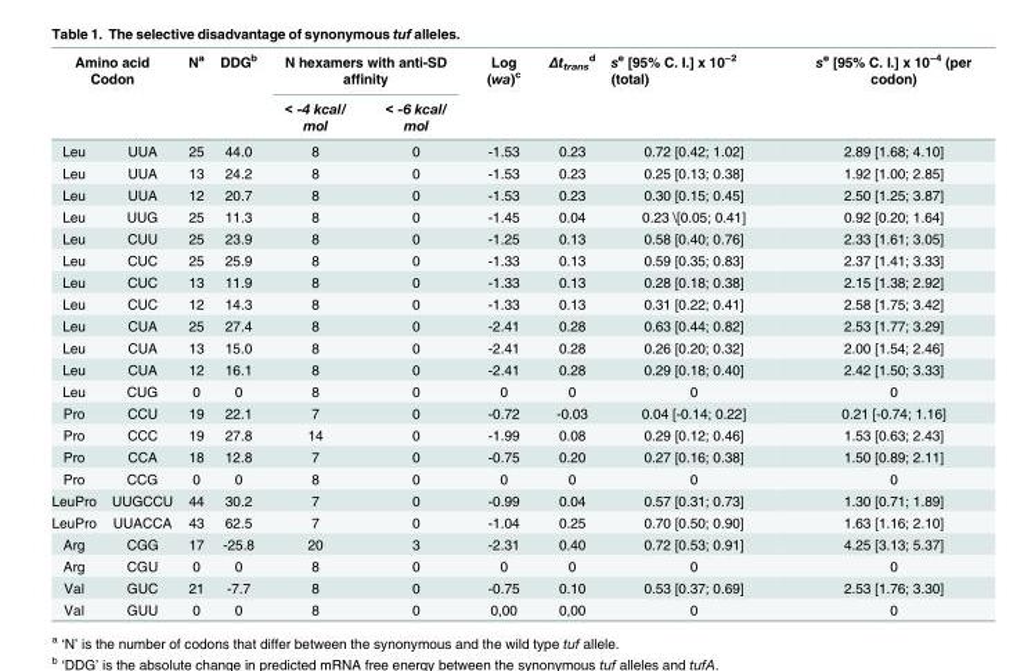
<table><thead><tr><td colspan="2">Amino acid Codon</td><td rowspan="2">N<sup>a</sup></td><td rowspan="2">DDG<sup>b</sup></td><td colspan="2">N hexamers with anti-SD affinity</td><td rowspan="2">Log (wa)<sup>c</sup></td><td rowspan="2">Δt<sub>trans</sub> <sup>d</sup></td><td rowspan="2">s<sup>e</sup> [95% C. I.] x 10<sup>−2</sup> (total)</td><td rowspan="2">s<sup>e</sup> [95% C. I.] x 10<sup>−4</sup> (per codon)</td></tr><tr><td></td><td></td><td>&lt; -4 kcal/ mol</td><td>&lt; -6 kcal/ mol</td></tr></thead><tbody><tr><td>Leu</td><td>UUA</td><td>25</td><td>44.0</td><td>8</td><td>0</td><td>-1.53</td><td>0.23</td><td>0.72 [0.42; 1.02]</td><td>2.89 [1.68; 4.10]</td></tr><tr><td>Leu</td><td>UUA</td><td>13</td><td>24.2</td><td>8</td><td>0</td><td>-1.53</td><td>0.23</td><td>0.25 [0.13; 0.38]</td><td>1.92 [1.00; 2.85]</td></tr><tr><td>Leu</td><td>UUA</td><td>12</td><td>20.7</td><td>8</td><td>0</td><td>-1.53</td><td>0.23</td><td>0.30 [0.15; 0.45]</td><td>2.50 [1.25; 3.87]</td></tr><tr><td>Leu</td><td>UUG</td><td>25</td><td>11.3</td><td>8</td><td>0</td><td>-1.45</td><td>0.04</td><td>0.23 \[0.05; 0.41]</td><td>0.92 [0.20; 1.64]</td></tr><tr><td>Leu</td><td>CUU</td><td>25</td><td>23.9</td><td>8</td><td>0</td><td>-1.25</td><td>0.13</td><td>0.58 [0.40; 0.76]</td><td>2.33 [1.61; 3.05]</td></tr><tr><td>Leu</td><td>CUC</td><td>25</td><td>25.9</td><td>8</td><td>0</td><td>-1.33</td><td>0.13</td><td>0.59 [0.35; 0.83]</td><td>2.37 [1.41; 3.33]</td></tr><tr><td>Leu</td><td>CUC</td><td>13</td><td>11.9</td><td>8</td><td>0</td><td>-1.33</td><td>0.13</td><td>0.28 [0.18; 0.38]</td><td>2.15 [1.38; 2.92]</td></tr><tr><td>Leu</td><td>CUC</td><td>12</td><td>14.3</td><td>8</td><td>0</td><td>-1.33</td><td>0.13</td><td>0.31 [0.22; 0.41]</td><td>2.58 [1.75; 3.42]</td></tr><tr><td>Leu</td><td>CUA</td><td>25</td><td>27.4</td><td>8</td><td>0</td><td>-2.41</td><td>0.28</td><td>0.63 [0.44; 0.82]</td><td>2.53 [1.77; 3.29]</td></tr><tr><td>Leu</td><td>CUA</td><td>13</td><td>15.0</td><td>8</td><td>0</td><td>-2.41</td><td>0.28</td><td>0.26 [0.20; 0.32]</td><td>2.00 [1.54; 2.46]</td></tr><tr><td>Leu</td><td>CUA</td><td>12</td><td>16.1</td><td>8</td><td>0</td><td>-2.41</td><td>0.28</td><td>0.29 [0.18; 0.40]</td><td>2.42 [1.50; 3.33]</td></tr><tr><td>Leu</td><td>CUG</td><td>0</td><td>0</td><td>8</td><td>0</td><td>0</td><td>0</td><td>0</td><td>0</td></tr><tr><td>Pro</td><td>CCU</td><td>19</td><td>22.1</td><td>7</td><td>0</td><td>-0.72</td><td>-0.03</td><td>0.04 [-0.14; 0.22]</td><td>0.21 [-0.74; 1.16]</td></tr><tr><td>Pro</td><td>CCC</td><td>19</td><td>27.8</td><td>14</td><td>0</td><td>-1.99</td><td>0.08</td><td>0.29 [0.12; 0.46]</td><td>1.53 [0.63; 2.43]</td></tr><tr><td>Pro</td><td>CCA</td><td>18</td><td>12.8</td><td>7</td><td>0</td><td>-0.75</td><td>0.20</td><td>0.27 [0.16; 0.38]</td><td>1.50 [0.89; 2.11]</td></tr><tr><td>Pro</td><td>CCG</td><td>0</td><td>0</td><td>8</td><td>0</td><td>0</td><td>0</td><td>0</td><td>0</td></tr><tr><td>LeuPro</td><td>UUGCCU</td><td>44</td><td>30.2</td><td>7</td><td>0</td><td>-0.99</td><td>0.04</td><td>0.57 [0.31; 0.73]</td><td>1.30 [0.71; 1.89]</td></tr><tr><td>LeuPro</td><td>UUACCA</td><td>43</td><td>62.5</td><td>7</td><td>0</td><td>-1.04</td><td>0.25</td><td>0.70 [0.50; 0.90]</td><td>1.63 [1.16; 2.10]</td></tr><tr><td>Arg</td><td>CGG</td><td>17</td><td>-25.8</td><td>20</td><td>3</td><td>-2.31</td><td>0.40</td><td>0.72 [0.53; 0.91]</td><td>4.25 [3.13; 5.37]</td></tr><tr><td>Arg</td><td>CGU</td><td>0</td><td>0</td><td>8</td><td>0</td><td>0</td><td>0</td><td>0</td><td>0</td></tr><tr><td>Val</td><td>GUC</td><td>21</td><td>-7.7</td><td>8</td><td>0</td><td>-0.75</td><td>0.10</td><td>0.53 [0.37; 0.69]</td><td>2.53 [1.76; 3.30]</td></tr><tr><td>Val</td><td>GUU</td><td>0</td><td>0</td><td>8</td><td>0</td><td>0,00</td><td>0,00</td><td>0</td><td>0</td></tr></tbody></table>